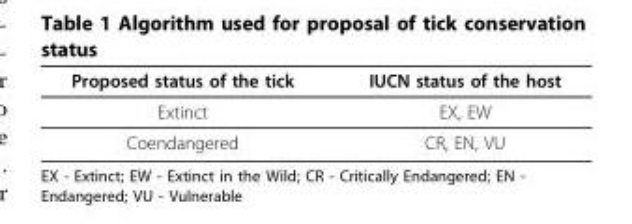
<table><thead><tr><td>Proposed status of the tick</td><td>IUCN status of the host</td></tr></thead><tbody><tr><td>Extinct</td><td>EX, EW</td></tr><tr><td>Coendangered</td><td>CR, EN, VU</td></tr></tbody></table>